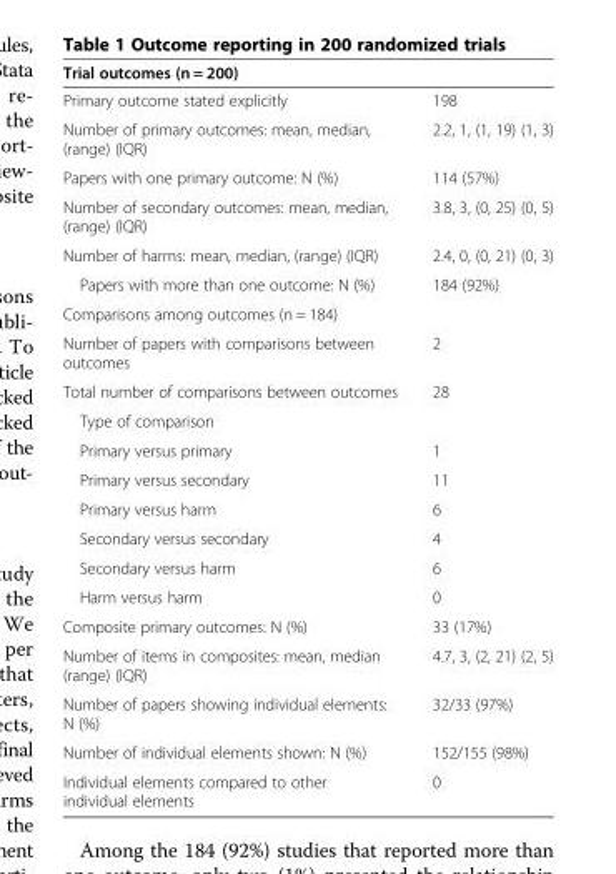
<table><thead><tr><td>Trial outcomes (n = 200)</td><td></td></tr></thead><tbody><tr><td>Primary outcome stated explicitly</td><td>198</td></tr><tr><td>Number of primary outcomes: mean, median, (range) (IQR)</td><td>2.2, 1, (1, 19) (1, 3)</td></tr><tr><td>Papers with one primary outcome: N (%)</td><td>114 (57%)</td></tr><tr><td>Number of secondary outcomes: mean, median, (range) (IQR)</td><td>3.8, 3, (0, 25) (0, 5)</td></tr><tr><td>Number of harms: mean, median, (range) (IQR)</td><td>2.4, 0, (0, 21) (0, 3)</td></tr><tr><td>Papers with more than one outcome: N (%)</td><td>184 (92%)</td></tr><tr><td colspan="2">Comparisons among outcomes (n = 184)</td></tr><tr><td>Number of papers with comparisons between outcomes</td><td>2</td></tr><tr><td>Total number of comparisons between outcomes</td><td>28</td></tr><tr><td colspan="2">Type of comparison</td></tr><tr><td>Primary versus primary</td><td>1</td></tr><tr><td>Primary versus secondary</td><td>11</td></tr><tr><td>Primary versus harm</td><td>6</td></tr><tr><td>Secondary versus secondary</td><td>4</td></tr><tr><td>Secondary versus harm</td><td>6</td></tr><tr><td>Harm versus harm</td><td>0</td></tr><tr><td>Composite primary outcomes: N (%)</td><td>33 (17%)</td></tr><tr><td>Number of items in composites: mean, median (range) (IQR)</td><td>4.7, 3, (2, 21) (2, 5)</td></tr><tr><td>Number of papers showing individual elements: N (%)</td><td>32/33 (97%)</td></tr><tr><td>Number of individual elements shown: N (%)</td><td>152/155 (98%)</td></tr><tr><td>Individual elements compared to other individual elements</td><td>0</td></tr></tbody></table>